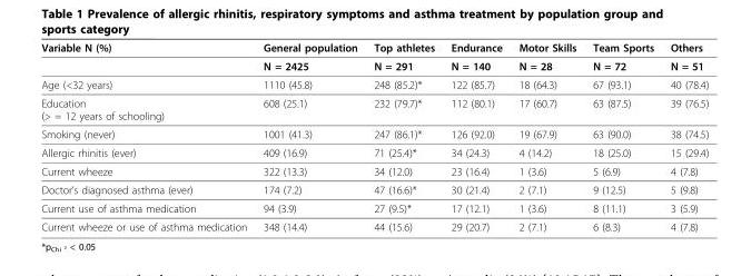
<table><thead><tr><td>Variable N (%)</td><td>General population</td><td>Top athletes</td><td>Endurance</td><td>Motor Skills</td><td>Team Sports</td><td>Others</td></tr></thead><tbody><tr><td></td><td>N = 2425</td><td>N = 291</td><td>N = 140</td><td>N = 28</td><td>N = 72</td><td>N = 51</td></tr><tr><td>Age (&lt;32 years)</td><td>1110 (45.8)</td><td>248 (85.2)*</td><td>122 (85.7)</td><td>18 (64.3)</td><td>67 (93.1)</td><td>40 (78.4)</td></tr><tr><td>Education (&gt; = 12 years of schooling)</td><td>608 (25.1)</td><td>232 (79.7)*</td><td>112 (80.1)</td><td>17 (60.7)</td><td>63 (87.5)</td><td>39 (76.5)</td></tr><tr><td>Smoking (never)</td><td>1001 (41.3)</td><td>247 (86.1)*</td><td>126 (92.0)</td><td>19 (67.9)</td><td>63 (90.0)</td><td>38 (74.5)</td></tr><tr><td>Allergic rhinitis (ever)</td><td>409 (16.9)</td><td>71 (25.4)*</td><td>34 (24.3)</td><td>4 (14.2)</td><td>18 (25.0)</td><td>15 (29.4)</td></tr><tr><td>Current wheeze</td><td>322 (13.3)</td><td>34 (12.0)</td><td>23 (16.4)</td><td>1 (3.6)</td><td>5 (6.9)</td><td>4 (7.8)</td></tr><tr><td>Doctor’s diagnosed asthma (ever)</td><td>174 (7.2)</td><td>47 (16.6)*</td><td>30 (21.4)</td><td>2 (7.1)</td><td>9 (12.5)</td><td>5 (9.8)</td></tr><tr><td>Current use of asthma medication</td><td>94 (3.9)</td><td>27 (9.5)*</td><td>17 (12.1)</td><td>1 (3.6)</td><td>8 (11.1)</td><td>3 (5.9)</td></tr><tr><td>Current wheeze or use of asthma medication</td><td>348 (14.4)</td><td>44 (15.6)</td><td>29 (20.7)</td><td>2 (7.1)</td><td>6 (8.3)</td><td>4 (7.8)</td></tr></tbody></table>